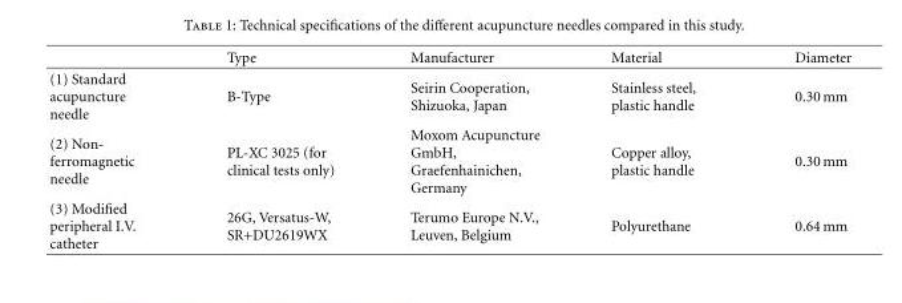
<table><thead><tr><td></td><td>Type</td><td>Manufacturer</td><td>Material</td><td>Diameter</td></tr></thead><tbody><tr><td>(1) Standard acupuncture needle</td><td>B-Type</td><td>Seirin Cooperation, Shizuoka, Japan</td><td>Stainless steel, plastic handle</td><td>0.30 mm</td></tr><tr><td>(2) Non- ferromagnetic needle</td><td>PL-XC 3025 (for clinical tests only)</td><td>Moxom Acupuncture GmbH, Graefenhainichen, Germany</td><td>Copper alloy, plastic handle</td><td>0.30 mm</td></tr><tr><td>(3) Modified peripheral I.V. catheter</td><td>26G, Versatus-W, SR+DU2619WX</td><td>Terumo Europe N.V., Leuven, Belgium</td><td>Polyurethane</td><td>0.64 mm</td></tr></tbody></table>